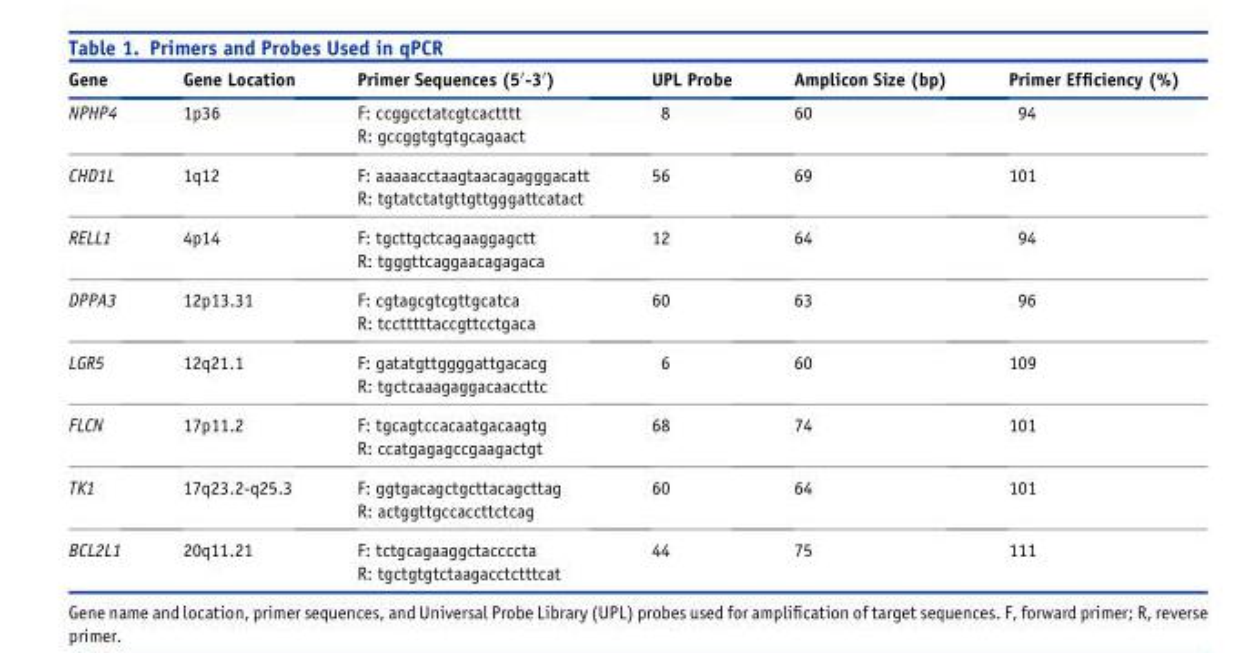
<table><thead><tr><td>Gene</td><td>Gene Location</td><td>Primer Sequences (5′-3′)</td><td>UPL Probe</td><td>Amplicon Size (bp)</td><td>Primer Efficiency (%)</td></tr></thead><tbody><tr><td>NPHP4</td><td>1p36</td><td>F: ccggcctatcgtcactttt R: gccggtgtgtgcagaact</td><td>8</td><td>60</td><td>94</td></tr><tr><td>CHD1L</td><td>1q12</td><td>F: aaaaacctaagtaacagagggacatt R: tgtatctatgttgttgggattcatact</td><td>56</td><td>69</td><td>101</td></tr><tr><td>RELL1</td><td>4p14</td><td>F: tgcttgctcagaaggagctt R: tgggttcaggaacagagaca</td><td>12</td><td>64</td><td>94</td></tr><tr><td>DPPA3</td><td>12p13.31</td><td>F: cgtagcgtcgttgcatca R: tcctttttaccgttcctgaca</td><td>60</td><td>63</td><td>96</td></tr><tr><td>LGR5</td><td>12q21.1</td><td>F: gatatgttggggattgacacg R: tgctcaaagaggacaaccttc</td><td>6</td><td>60</td><td>109</td></tr><tr><td>FLCN</td><td>17p11.2</td><td>F: tgcagtccacaatgacaagtg R: ccatgagagccgaagactgt</td><td>68</td><td>74</td><td>101</td></tr><tr><td>TK1</td><td>17q23.2-q25.3</td><td>F: ggtgacagctgcttacagcttag R: actggttgccaccttctcag</td><td>60</td><td>64</td><td>101</td></tr><tr><td>BCL2L1</td><td>20q11.21</td><td>F: tctgcagaaggctaccccta R: tgctgtgtctaagacctctttcat</td><td>44</td><td>75</td><td>111</td></tr></tbody></table>